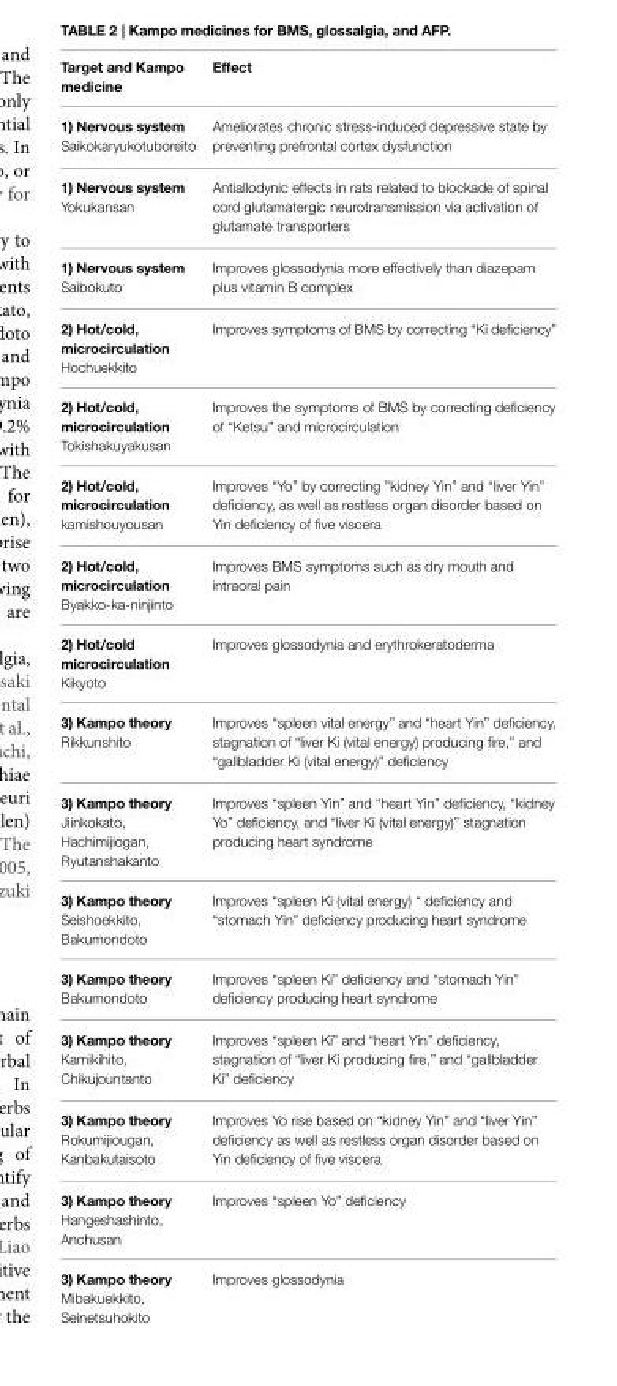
<table><thead><tr><td>Target and Kampo medicine</td><td>Effect</td></tr></thead><tbody><tr><td>1) Nervous system Saikokaryukotuboreito</td><td>Ameliorates chronic stress-induced depressive state by preventing prefrontal cortex dysfunction</td></tr><tr><td>1) Nervous system Yokukansan</td><td>Antiallodynic effects in rats related to blockade of spinal cord glutamatergic neurotransmission via activation of glutamate transporters</td></tr><tr><td>1) Nervous system Saibokuto</td><td>Improves glossodynia more effectively than diazepam plus vitamin B complex</td></tr><tr><td>2) Hot/cold, microcirculation Hochuekkito</td><td>Improves symptoms of BMS by correcting “Ki deficiency”</td></tr><tr><td>2) Hot/cold, microcirculation Tokishakuyakusan</td><td>Improves the symptoms of BMS by correcting deficiency of “Ketsu” and microcirculation</td></tr><tr><td>2) Hot/cold, microcirculation kamishouyousan</td><td>Improves “Yo” by correcting ”kidney Yin” and “liver Yin” deficiency, as well as restless organ disorder based on Yin deficiency of five viscera</td></tr><tr><td>2) Hot/cold, microcirculation Byakko-ka-ninjinto</td><td>Improves BMS symptoms such as dry mouth and intraoral pain</td></tr><tr><td>2) Hot/cold microcirculation Kikyoto</td><td>Improves glossodynia and erythrokeratoderma</td></tr><tr><td>3) Kampo theory Rikkunshito</td><td>Improves “spleen vital energy” and “heart Yin” deficiency, stagnation of “liver Ki (vital energy) producing fire,” and “gallbladder Ki (vital energy)” deficiency</td></tr><tr><td>3) Kampo theory Jiinkokato, Hachimijiogan, Ryutanshakanto</td><td>Improves “spleen Yin” and “heart Yin” deficiency, “kidney Yo” deficiency, and “liver Ki (vital energy)” stagnation producing heart syndrome</td></tr><tr><td>3) Kampo theory Seishoekkito, Bakumondoto</td><td>Improves “spleen Ki (vital energy) “ deficiency and “stomach Yin” deficiency producing heart syndrome</td></tr><tr><td>3) Kampo theory Bakumondoto</td><td>Improves “spleen Ki” deficiency and “stomach Yin” deficiency producing heart syndrome</td></tr><tr><td>3) Kampo theory Kamikihito, Chikujountanto</td><td>Improves “spleen Ki” and “heart Yin” deficiency, stagnation of “liver Ki producing fire,” and “gallbladder Ki” deficiency</td></tr><tr><td>3) Kampo theory Rokumijiougan, Kanbakutaisoto</td><td>Improves Yo rise based on “kidney Yin” and “liver Yin” deficiency as well as restless organ disorder based on Yin deficiency of five viscera</td></tr><tr><td>3) Kampo theory Hangeshashinto, Anchusan</td><td>Improves “spleen Yo” deficiency</td></tr><tr><td>3) Kampo theory Mibakuekkito, Seinetsuhokito</td><td>Improves glossodynia</td></tr></tbody></table>